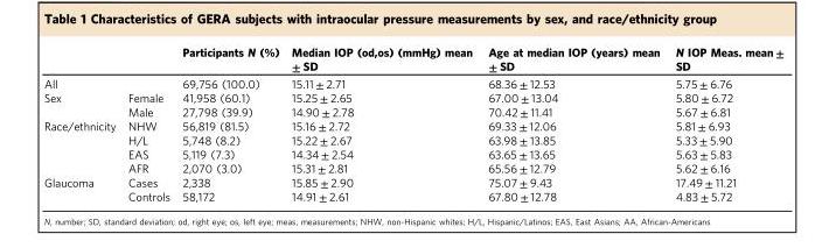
<table><thead><tr><td></td><td></td><td>Participants N (%)</td><td>Median IOP (od,os) (mmHg) mean ± SD</td><td>Age at median IOP (years) mean ± SD</td><td>N IOP Meas. mean ± SD</td></tr></thead><tbody><tr><td>All</td><td></td><td>69,756 (100.0)</td><td>15.11 ± 2.71</td><td>68.36 ± 12.53</td><td>5.75 ± 6.76</td></tr><tr><td rowspan="2">Sex</td><td>Female</td><td>41,958 (60.1)</td><td>15.25 ± 2.65</td><td>67.00 ± 13.04</td><td>5.80 ± 6.72</td></tr><tr><td>Male</td><td>27,798 (39.9)</td><td>14.90 ± 2.78</td><td>70.42 ± 11.41</td><td>5.67 ± 6.81</td></tr><tr><td rowspan="4">Race/ethnicity</td><td>NHW</td><td>56,819 (81.5)</td><td>15.16 ± 2.72</td><td>69.33 ± 12.06</td><td>5.81 ± 6.93</td></tr><tr><td>H/L</td><td>5,748 (8.2)</td><td>15.22 ± 2.67</td><td>63.98 ± 13.85</td><td>5.33 ± 5.90</td></tr><tr><td>EAS</td><td>5,119 (7.3)</td><td>14.34 ± 2.54</td><td>63.65 ± 13.65</td><td>5.63 ± 5.83</td></tr><tr><td>AFR</td><td>2,070 (3.0)</td><td>15.31 ± 2.81</td><td>65.56 ± 12.79</td><td>5.62 ± 6.16</td></tr><tr><td rowspan="2">Glaucoma</td><td>Cases</td><td>2,338</td><td>15.85 ± 2.90</td><td>75.07 ± 9.43</td><td>17.49 ± 11.21</td></tr><tr><td>Controls</td><td>58,172</td><td>14.91 ± 2.61</td><td>67.80 ± 12.78</td><td>4.83 ± 5.72</td></tr></tbody></table>